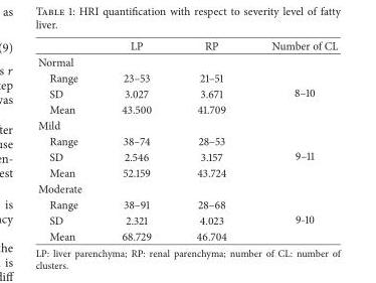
<table><thead><tr><td></td><td>LP</td><td>RP</td><td>Number of CL</td></tr></thead><tbody><tr><td colspan="4">Normal</td></tr><tr><td>Range</td><td>23–53</td><td>21–51</td><td rowspan="3">8–10</td></tr><tr><td>SD</td><td>3.027</td><td>3.671</td></tr><tr><td>Mean</td><td>43.500</td><td>41.709</td></tr><tr><td colspan="4">Mild</td></tr><tr><td>Range</td><td>38–74</td><td>28–53</td><td rowspan="3">9–11</td></tr><tr><td>SD</td><td>2.546</td><td>3.157</td></tr><tr><td>Mean</td><td>52.159</td><td>43.724</td></tr><tr><td colspan="4">Moderate</td></tr><tr><td>Range</td><td>38–91</td><td>28–68</td><td rowspan="3">9-10</td></tr><tr><td>SD</td><td>2.321</td><td>4.023</td></tr><tr><td>Mean</td><td>68.729</td><td>46.704</td></tr></tbody></table>